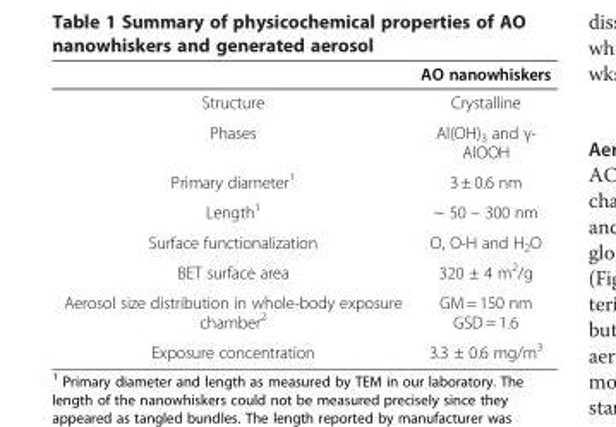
<table><thead><tr><td></td><td>AO nanowhiskers</td></tr></thead><tbody><tr><td>Structure</td><td>Crystalline</td></tr><tr><td>Phases</td><td>Al(OH)<sub>3</sub> and γ- AlOOH</td></tr><tr><td>Primary diameter<sup>1</sup></td><td>3 ± 0.6 nm</td></tr><tr><td>Length<sup>1</sup></td><td>~ 50 – 300 nm</td></tr><tr><td>Surface functionalization</td><td>O, O-H and H<sub>2</sub>O</td></tr><tr><td>BET surface area</td><td>320 ± 4 m<sup>2</sup>/g</td></tr><tr><td>Aerosol size distribution in whole-body exposure chamber<sup>2</sup></td><td>GM = 150 nm GSD = 1.6</td></tr><tr><td>Exposure concentration</td><td>3.3 ± 0.6 mg/m<sup>3</sup></td></tr></tbody></table>